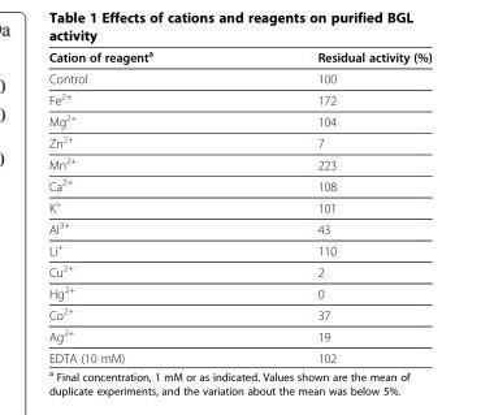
<table><thead><tr><td>Cation of reagent<sup>a</sup></td><td>Residual activity (%)</td></tr></thead><tbody><tr><td>Control</td><td>100</td></tr><tr><td>Fe<sup>2+</sup></td><td>172</td></tr><tr><td>Mg<sup>2+</sup></td><td>104</td></tr><tr><td>Zn<sup>2+</sup></td><td>7</td></tr><tr><td>Mn<sup>2+</sup></td><td>223</td></tr><tr><td>Ca<sup>2+</sup></td><td>108</td></tr><tr><td>K<sup>+</sup></td><td>101</td></tr><tr><td>Al<sup>3+</sup></td><td>43</td></tr><tr><td>Li<sup>+</sup></td><td>110</td></tr><tr><td>Cu<sup>2+</sup></td><td>2</td></tr><tr><td>Hg<sup>2+</sup></td><td>0</td></tr><tr><td>Co<sup>2+</sup></td><td>37</td></tr><tr><td>Ag<sup>2+</sup></td><td>19</td></tr><tr><td>EDTA (10 mM)</td><td>102</td></tr></tbody></table>